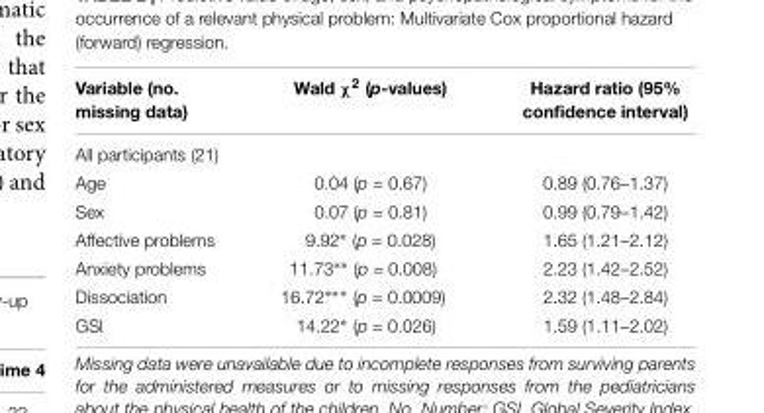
<table><thead><tr><td>Variable (no. missing data)</td><td>Wald χ<sup>2</sup> (p-values)</td><td>Hazard ratio (95% confidence interval)</td></tr></thead><tbody><tr><td colspan="3">All participants (21)</td></tr><tr><td>Age</td><td>0.04 (p = 0.67)</td><td>0.89 (0.76–1.37)</td></tr><tr><td>Sex</td><td>0.07 (p = 0.81)</td><td>0.99 (0.79–1.42)</td></tr><tr><td>Affective problems</td><td>9.92∗ (p = 0.028)</td><td>1.65 (1.21–2.12)</td></tr><tr><td>Anxiety problems</td><td>11.73∗∗ (p = 0.008)</td><td>2.23 (1.42–2.52)</td></tr><tr><td>Dissociation</td><td>16.72∗∗∗ (p = 0.0009)</td><td>2.32 (1.48–2.84)</td></tr><tr><td>GSI</td><td>14.22∗ (p = 0.026)</td><td>1.59 (1.11–2.02)</td></tr></tbody></table>